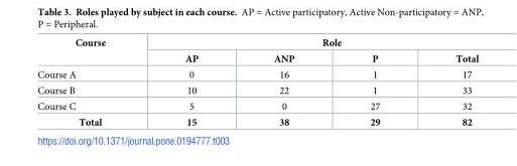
<table><thead><tr><td rowspan="2">Course</td><td colspan="4">Role</td></tr><tr><td>AP</td><td>ANP</td><td>P</td><td>Total</td></tr></thead><tbody><tr><td>Course A</td><td>0</td><td>16</td><td>1</td><td>17</td></tr><tr><td>Course B</td><td>10</td><td>22</td><td>1</td><td>33</td></tr><tr><td>Course C</td><td>5</td><td>0</td><td>27</td><td>32</td></tr><tr><td>Total</td><td>15</td><td>38</td><td>29</td><td>82</td></tr></tbody></table>